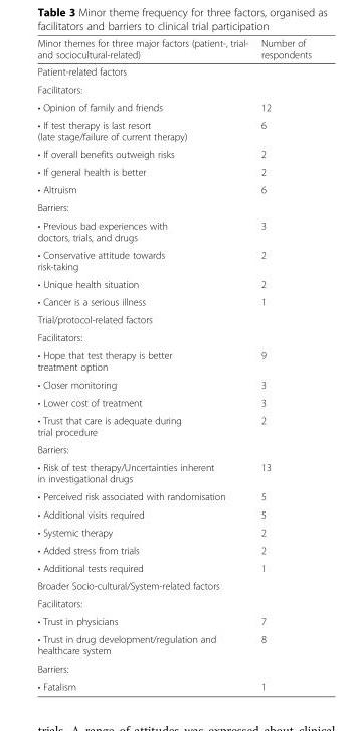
<table><thead><tr><td>Minor themes for three major factors (patient-, trial- and sociocultural-related)</td><td>Number of respondents</td></tr></thead><tbody><tr><td colspan="2">Patient-related factors</td></tr><tr><td colspan="2">Facilitators:</td></tr><tr><td>• Opinion of family and friends</td><td>12</td></tr><tr><td>• If test therapy is last resort (late stage/failure of current therapy)</td><td>6</td></tr><tr><td>• If overall benefits outweigh risks</td><td>2</td></tr><tr><td>• If general health is better</td><td>2</td></tr><tr><td>• Altruism</td><td>6</td></tr><tr><td colspan="2">Barriers:</td></tr><tr><td>• Previous bad experiences with doctors, trials, and drugs</td><td>3</td></tr><tr><td>• Conservative attitude towards risk-taking</td><td>2</td></tr><tr><td>• Unique health situation</td><td>2</td></tr><tr><td>• Cancer is a serious illness</td><td>1</td></tr><tr><td colspan="2">Trial/protocol-related factors</td></tr><tr><td colspan="2">Facilitators:</td></tr><tr><td>• Hope that test therapy is better treatment option</td><td>9</td></tr><tr><td>• Closer monitoring</td><td>3</td></tr><tr><td>• Lower cost of treatment</td><td>3</td></tr><tr><td>• Trust that care is adequate during trial procedure</td><td>2</td></tr><tr><td colspan="2">Barriers:</td></tr><tr><td>• Risk of test therapy/Uncertainties inherent in investigational drugs</td><td>13</td></tr><tr><td>• Perceived risk associated with randomisation</td><td>5</td></tr><tr><td>• Additional visits required</td><td>5</td></tr><tr><td>• Systemic therapy</td><td>2</td></tr><tr><td>• Added stress from trials</td><td>2</td></tr><tr><td>• Additional tests required</td><td>1</td></tr><tr><td colspan="2">Broader Socio-cultural/System-related factors</td></tr><tr><td colspan="2">Facilitators:</td></tr><tr><td>• Trust in physicians</td><td>7</td></tr><tr><td>• Trust in drug development/regulation and healthcare system</td><td>8</td></tr><tr><td colspan="2">Barriers:</td></tr><tr><td>• Fatalism</td><td>1</td></tr></tbody></table>